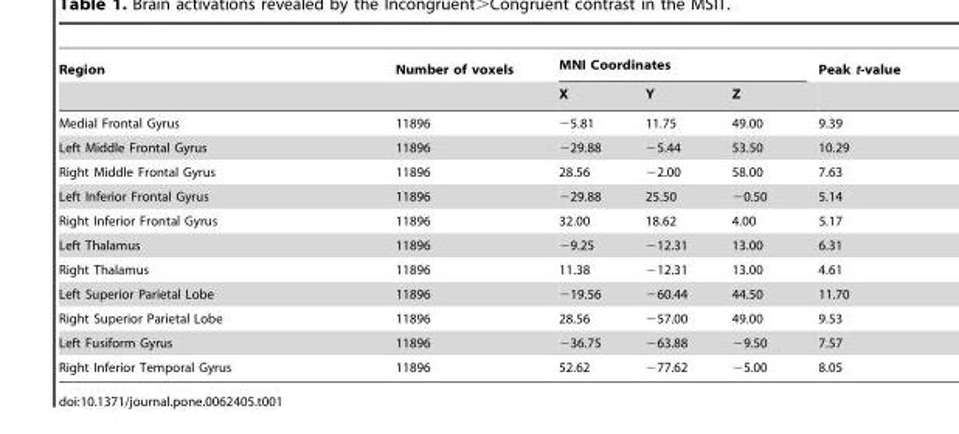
<table><thead><tr><td rowspan="2">Region</td><td rowspan="2">Number of voxels</td><td colspan="3">MNI Coordinates</td><td rowspan="2">Peak t-value</td></tr><tr><td>X</td><td>Y</td><td>Z</td></tr></thead><tbody><tr><td>Medial Frontal Gyrus</td><td>11896</td><td>−5.81</td><td>11.75</td><td>49.00</td><td>9.39</td></tr><tr><td>Left Middle Frontal Gyrus</td><td>11896</td><td>−29.88</td><td>−5.44</td><td>53.50</td><td>10.29</td></tr><tr><td>Right Middle Frontal Gyrus</td><td>11896</td><td>28.56</td><td>−2.00</td><td>58.00</td><td>7.63</td></tr><tr><td>Left Inferior Frontal Gyrus</td><td>11896</td><td>−29.88</td><td>25.50</td><td>−0.50</td><td>5.14</td></tr><tr><td>Right Inferior Frontal Gyrus</td><td>11896</td><td>32.00</td><td>18.62</td><td>4.00</td><td>5.17</td></tr><tr><td>Left Thalamus</td><td>11896</td><td>−9.25</td><td>−12.31</td><td>13.00</td><td>6.31</td></tr><tr><td>Right Thalamus</td><td>11896</td><td>11.38</td><td>−12.31</td><td>13.00</td><td>4.61</td></tr><tr><td>Left Superior Parietal Lobe</td><td>11896</td><td>−19.56</td><td>−60.44</td><td>44.50</td><td>11.70</td></tr><tr><td>Right Superior Parietal Lobe</td><td>11896</td><td>28.56</td><td>−57.00</td><td>49.00</td><td>9.53</td></tr><tr><td>Left Fusiform Gyrus</td><td>11896</td><td>−36.75</td><td>−63.88</td><td>−9.50</td><td>7.57</td></tr><tr><td>Right Inferior Temporal Gyrus</td><td>11896</td><td>52.62</td><td>−77.62</td><td>−5.00</td><td>8.05</td></tr></tbody></table>